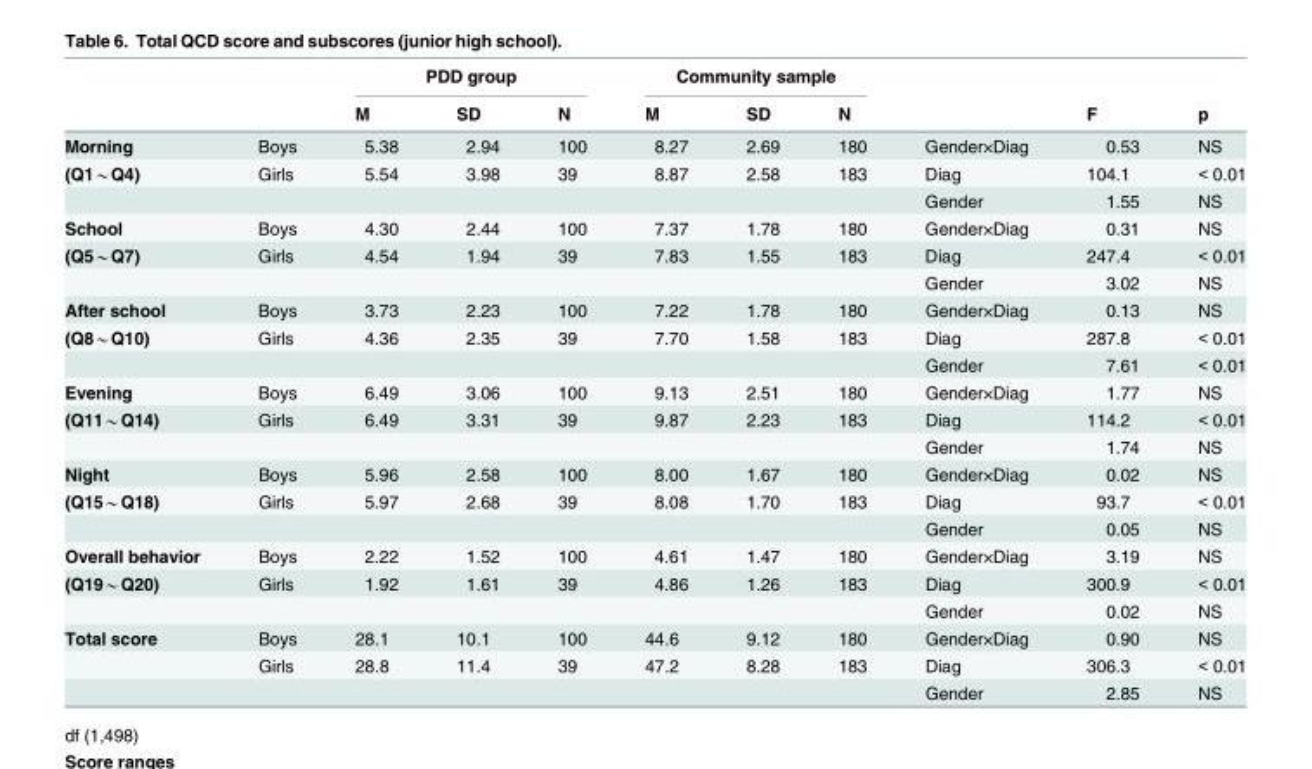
<table><thead><tr><td rowspan="2"></td><td rowspan="2"></td><td colspan="3">PDD group</td><td colspan="3">Community sample</td><td rowspan="2"></td><td rowspan="2">F</td><td rowspan="2">p</td></tr><tr><td>M</td><td>SD</td><td>N</td><td>M</td><td>SD</td><td>N</td></tr></thead><tbody><tr><td>Morning</td><td>Boys</td><td>5.38</td><td>2.94</td><td>100</td><td>8.27</td><td>2.69</td><td>180</td><td>Gender×Diag</td><td>0.53</td><td>NS</td></tr><tr><td rowspan="2">(Q1*Q4)</td><td>Girls</td><td>5.54</td><td>3.98</td><td>39</td><td>8.87</td><td>2.58</td><td>183</td><td>Diag</td><td>104.1</td><td>&lt; 0.01</td></tr><tr><td></td><td></td><td></td><td></td><td></td><td></td><td></td><td>Gender</td><td>1.55</td><td>NS</td></tr><tr><td>School</td><td>Boys</td><td>4.30</td><td>2.44</td><td>100</td><td>7.37</td><td>1.78</td><td>180</td><td>Gender×Diag</td><td>0.31</td><td>NS</td></tr><tr><td rowspan="2">(Q5*Q7)</td><td>Girls</td><td>4.54</td><td>1.94</td><td>39</td><td>7.83</td><td>1.55</td><td>183</td><td>Diag</td><td>247.4</td><td>&lt; 0.01</td></tr><tr><td></td><td></td><td></td><td></td><td></td><td></td><td></td><td>Gender</td><td>3.02</td><td>NS</td></tr><tr><td>After school</td><td>Boys</td><td>3.73</td><td>2.23</td><td>100</td><td>7.22</td><td>1.78</td><td>180</td><td>Gender×Diag</td><td>0.13</td><td>NS</td></tr><tr><td rowspan="2">(Q8*Q10)</td><td>Girls</td><td>4.36</td><td>2.35</td><td>39</td><td>7.70</td><td>1.58</td><td>183</td><td>Diag</td><td>287.8</td><td>&lt; 0.01</td></tr><tr><td></td><td></td><td></td><td></td><td></td><td></td><td></td><td>Gender</td><td>7.61</td><td>&lt; 0.01</td></tr><tr><td>Evening</td><td>Boys</td><td>6.49</td><td>3.06</td><td>100</td><td>9.13</td><td>2.51</td><td>180</td><td>Gender×Diag</td><td>1.77</td><td>NS</td></tr><tr><td rowspan="2">(Q11*Q14)</td><td>Girls</td><td>6.49</td><td>3.31</td><td>39</td><td>9.87</td><td>2.23</td><td>183</td><td>Diag</td><td>114.2</td><td>&lt; 0.01</td></tr><tr><td></td><td></td><td></td><td></td><td></td><td></td><td></td><td>Gender</td><td>1.74</td><td>NS</td></tr><tr><td>Night</td><td>Boys</td><td>5.96</td><td>2.58</td><td>100</td><td>8.00</td><td>1.67</td><td>180</td><td>Gender×Diag</td><td>0.02</td><td>NS</td></tr><tr><td rowspan="2">(Q15*Q18)</td><td>Girls</td><td>5.97</td><td>2.68</td><td>39</td><td>8.08</td><td>1.70</td><td>183</td><td>Diag</td><td>93.7</td><td>&lt; 0.01</td></tr><tr><td></td><td></td><td></td><td></td><td></td><td></td><td></td><td>Gender</td><td>0.05</td><td>NS</td></tr><tr><td>Overall behavior</td><td>Boys</td><td>2.22</td><td>1.52</td><td>100</td><td>4.61</td><td>1.47</td><td>180</td><td>Gender×Diag</td><td>3.19</td><td>NS</td></tr><tr><td rowspan="2">(Q19*Q20)</td><td>Girls</td><td>1.92</td><td>1.61</td><td>39</td><td>4.86</td><td>1.26</td><td>183</td><td>Diag</td><td>300.9</td><td>&lt; 0.01</td></tr><tr><td></td><td></td><td></td><td></td><td></td><td></td><td></td><td>Gender</td><td>0.02</td><td>NS</td></tr><tr><td rowspan="3">Total score</td><td>Boys</td><td>28.1</td><td>10.1</td><td>100</td><td>44.6</td><td>9.12</td><td>180</td><td>Gender×Diag</td><td>0.90</td><td>NS</td></tr><tr><td>Girls</td><td>28.8</td><td>11.4</td><td>39</td><td>47.2</td><td>8.28</td><td>183</td><td>Diag</td><td>306.3</td><td>&lt; 0.01</td></tr><tr><td></td><td></td><td></td><td></td><td></td><td></td><td></td><td>Gender</td><td>2.85</td><td>NS</td></tr></tbody></table>